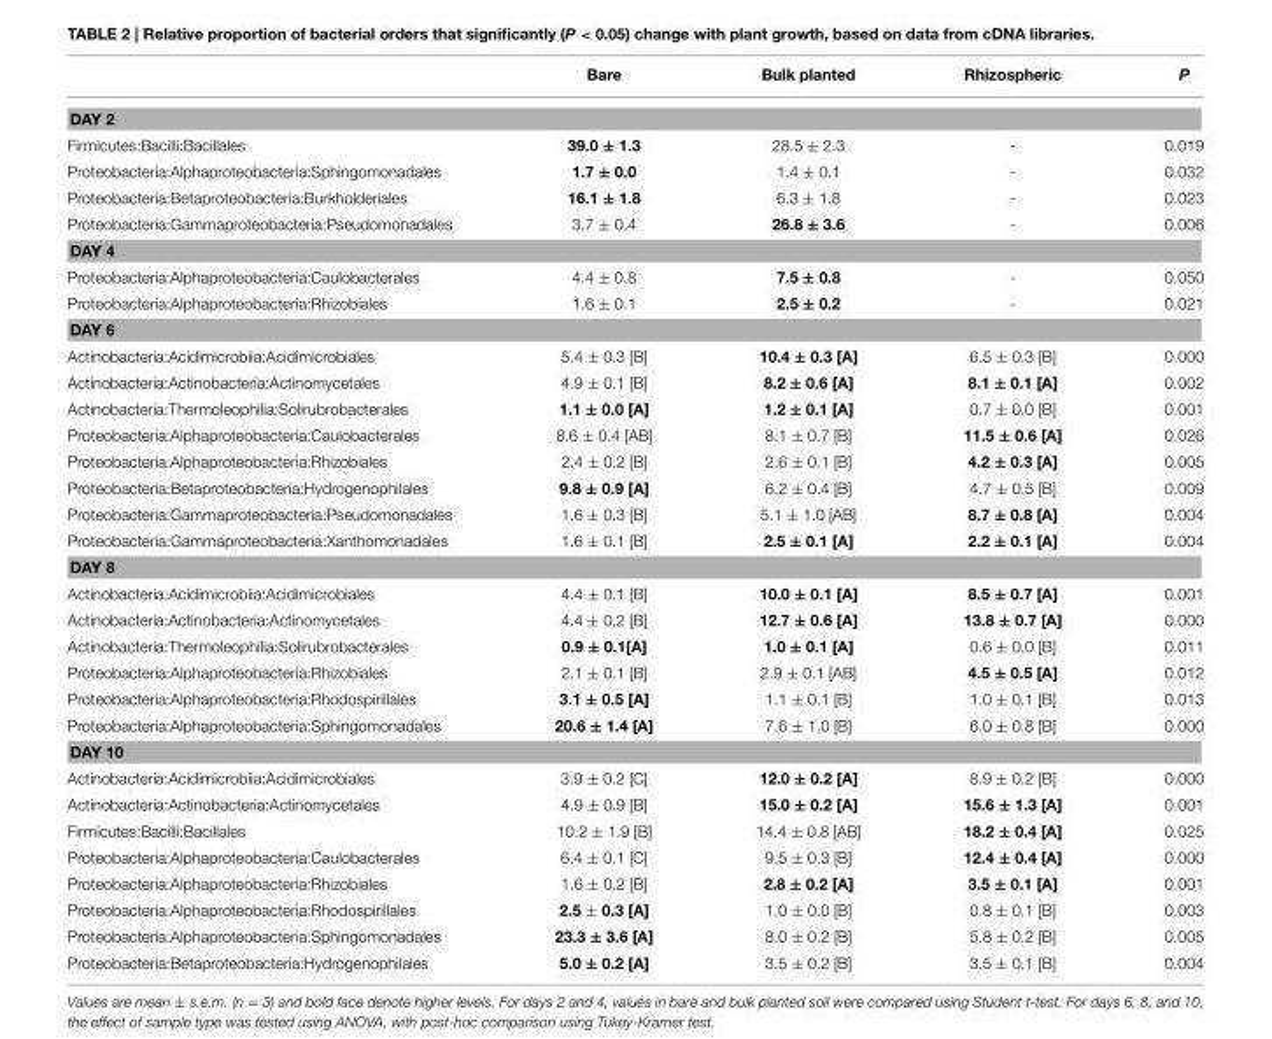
<table><thead><tr><td></td><td>Bare</td><td>Bulk planted</td><td>Rhizospheric</td><td>P</td></tr></thead><tbody><tr><td colspan="5">DAY 2</td></tr><tr><td>Firmicutes:Bacilli:Bacillales</td><td>39.0 ± 1.3</td><td>28.5 ± 2.3</td><td>-</td><td>0.019</td></tr><tr><td>Proteobacteria:Alphaproteobacteria:Sphingomonadales</td><td>1.7 ± 0.0</td><td>1.4 ± 0.1</td><td>-</td><td>0.032</td></tr><tr><td>Proteobacteria:Betaproteobacteria:Burkholderiales</td><td>16.1 ± 1.8</td><td>6.3 ± 1.8</td><td>-</td><td>0.023</td></tr><tr><td>Proteobacteria:Gammaproteobacteria:Pseudomonadales</td><td>3.7 ± 0.4</td><td>26.8 ± 3.6</td><td>-</td><td>0.006</td></tr><tr><td colspan="5">DAY 4</td></tr><tr><td>Proteobacteria:Alphaproteobacteria:Caulobacterales</td><td>4.4 ± 0.8</td><td>7.5 ± 0.8</td><td>-</td><td>0.050</td></tr><tr><td>Proteobacteria:Alphaproteobacteria:Rhizobiales</td><td>1.6 ± 0.1</td><td>2.5 ± 0.2</td><td>-</td><td>0.021</td></tr><tr><td colspan="5">DAY 6</td></tr><tr><td>Actinobacteria:Acidimicrobiia:Acidimicrobiales</td><td>5.4 ± 0.3 [B]</td><td>10.4 ± 0.3 [A]</td><td>6.5 ± 0.3 [B]</td><td>0.000</td></tr><tr><td>Actinobacteria:Actinobacteria:Actinomycetales</td><td>4.9 ± 0.1 [B]</td><td>8.2 ± 0.6 [A]</td><td>8.1 ± 0.1 [A]</td><td>0.002</td></tr><tr><td>Actinobacteria:Thermoleophilia:Solirubrobacterales</td><td>1.1 ± 0.0 [A]</td><td>1.2 ± 0.1 [A]</td><td>0.7 ± 0.0 [B]</td><td>0.001</td></tr><tr><td>Proteobacteria:Alphaproteobacteria:Caulobacterales</td><td>8.6 ± 0.4 [AB]</td><td>8.1 ± 0.7 [B]</td><td>11.5 ± 0.6 [A]</td><td>0.026</td></tr><tr><td>Proteobacteria:Alphaproteobacteria:Rhizobiales</td><td>2.4 ± 0.2 [B]</td><td>2.6 ± 0.1 [B]</td><td>4.2 ± 0.3 [A]</td><td>0.005</td></tr><tr><td>Proteobacteria:Betaproteobacteria:Hydrogenophilales</td><td>9.8 ± 0.9 [A]</td><td>6.2 ± 0.4 [B]</td><td>4.7 ± 0.5 [B]</td><td>0.009</td></tr><tr><td>Proteobacteria:Gammaproteobacteria:Pseudomonadales</td><td>1.6 ± 0.3 [B]</td><td>5.1 ± 1.0 [AB]</td><td>8.7 ± 0.8 [A]</td><td>0.004</td></tr><tr><td>Proteobacteria:Gammaproteobacteria:Xanthomonadales</td><td>1.6 ± 0.1 [B]</td><td>2.5 ± 0.1 [A]</td><td>2.2 ± 0.1 [A]</td><td>0.004</td></tr><tr><td colspan="5">DAY 8</td></tr><tr><td>Actinobacteria:Acidimicrobiia:Acidimicrobiales</td><td>4.4 ± 0.1 [B]</td><td>10.0 ± 0.1 [A]</td><td>8.5 ± 0.7 [A]</td><td>0.001</td></tr><tr><td>Actinobacteria:Actinobacteria:Actinomycetales</td><td>4.4 ± 0.2 [B]</td><td>12.7 ± 0.6 [A]</td><td>13.8 ± 0.7 [A]</td><td>0.000</td></tr><tr><td>Actinobacteria:Thermoleophilia:Solirubrobacterales</td><td>0.9 ± 0.1[A]</td><td>1.0 ± 0.1 [A]</td><td>0.6 ± 0.0 [B]</td><td>0.011</td></tr><tr><td>Proteobacteria:Alphaproteobacteria:Rhizobiales</td><td>2.1 ± 0.1 [B]</td><td>2.9 ± 0.1 [AB]</td><td>4.5 ± 0.5 [A]</td><td>0.012</td></tr><tr><td>Proteobacteria:Alphaproteobacteria:Rhodospirillales</td><td>3.1 ± 0.5 [A]</td><td>1.1 ± 0.1 [B]</td><td>1.0 ± 0.1 [B]</td><td>0.013</td></tr><tr><td>Proteobacteria:Alphaproteobacteria:Sphingomonadales</td><td>20.6 ± 1.4 [A]</td><td>7.6 ± 1.0 [B]</td><td>6.0 ± 0.8 [B]</td><td>0.000</td></tr><tr><td colspan="5">DAY 10</td></tr><tr><td>Actinobacteria:Acidimicrobiia:Acidimicrobiales</td><td>3.9 ± 0.2 [C]</td><td>12.0 ± 0.2 [A]</td><td>8.9 ± 0.2 [B]</td><td>0.000</td></tr><tr><td>Actinobacteria:Actinobacteria:Actinomycetales</td><td>4.9 ± 0.9 [B]</td><td>15.0 ± 0.2 [A]</td><td>15.6 ± 1.3 [A]</td><td>0.001</td></tr><tr><td>Firmicutes:Bacilli:Bacillales</td><td>10.2 ± 1.9 [B]</td><td>14.4 ± 0.8 [AB]</td><td>18.2 ± 0.4 [A]</td><td>0.025</td></tr><tr><td>Proteobacteria:Alphaproteobacteria:Caulobacterales</td><td>6.4 ± 0.1 [C]</td><td>9.5 ± 0.3 [B]</td><td>12.4 ± 0.4 [A]</td><td>0.000</td></tr><tr><td>Proteobacteria:Alphaproteobacteria:Rhizobiales</td><td>1.6 ± 0.2 [B]</td><td>2.8 ± 0.2 [A]</td><td>3.5 ± 0.1 [A]</td><td>0.001</td></tr><tr><td>Proteobacteria:Alphaproteobacteria:Rhodospirillales</td><td>2.5 ± 0.3 [A]</td><td>1.0 ± 0.0 [B]</td><td>0.8 ± 0.1 [B]</td><td>0.003</td></tr><tr><td>Proteobacteria:Alphaproteobacteria:Sphingomonadales</td><td>23.3 ± 3.6 [A]</td><td>8.0 ± 0.2 [B]</td><td>5.8 ± 0.2 [B]</td><td>0.005</td></tr><tr><td>Proteobacteria:Betaproteobacteria:Hydrogenophilales</td><td>5.0 ± 0.2 [A]</td><td>3.5 ± 0.2 [B]</td><td>3.5 ± 0.1 [B]</td><td>0.004</td></tr></tbody></table>